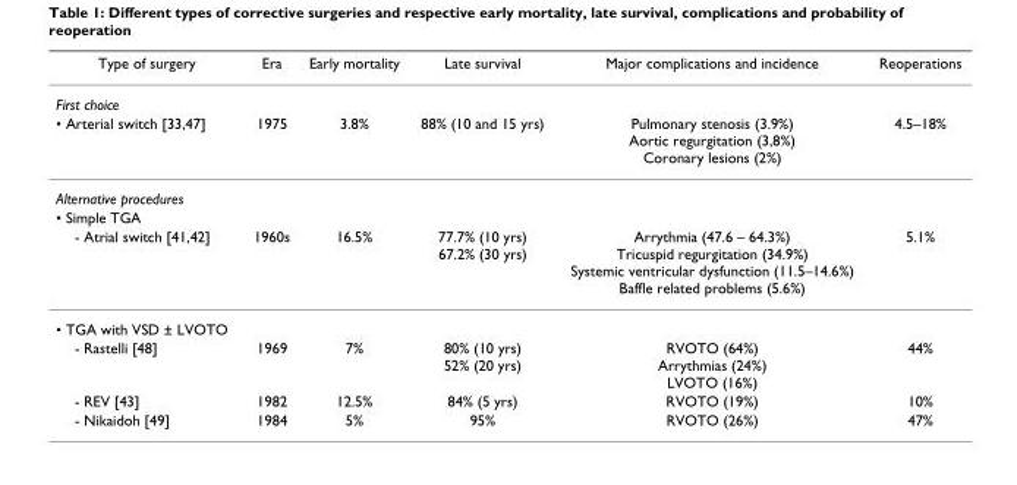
<table><thead><tr><td>Type of surgery</td><td>Era</td><td>Early mortality</td><td>Late survival</td><td>Major complications and incidence</td><td>Reoperations</td></tr></thead><tbody><tr><td colspan="6">First choice</td></tr><tr><td>• Arterial switch [33,47]</td><td>1975</td><td>3.8%</td><td>88% (10 and 15 yrs)</td><td>Pulmonary stenosis (3.9%) Aortic regurgitation (3,8%) Coronary lesions (2%)</td><td>4.5–18%</td></tr><tr><td colspan="6">Alternative procedures</td></tr><tr><td colspan="6">• Simple TGA</td></tr><tr><td>- Atrial switch [41,42]</td><td>1960s</td><td>16.5%</td><td>77.7% (10 yrs) 67.2% (30 yrs)</td><td>Arrythmia (47.6 – 64.3%) Tricuspid regurgitation (34.9%) Systemic ventricular dysfunction (11.5–14.6%) Baffle related problems (5.6%)</td><td>5.1%</td></tr><tr><td colspan="6">• TGA with VSD ± LVOTO</td></tr><tr><td>- Rastelli [48]</td><td>1969</td><td>7%</td><td>80% (10 yrs) 52% (20 yrs)</td><td>RVOTO (64%) Arrythmias (24%) LVOTO (16%)</td><td>44%</td></tr><tr><td>- REV [43]</td><td>1982</td><td>12.5%</td><td>84% (5 yrs)</td><td>RVOTO (19%)</td><td>10%</td></tr><tr><td>- Nikaidoh [49]</td><td>1984</td><td>5%</td><td>95%</td><td>RVOTO (26%)</td><td>47%</td></tr></tbody></table>